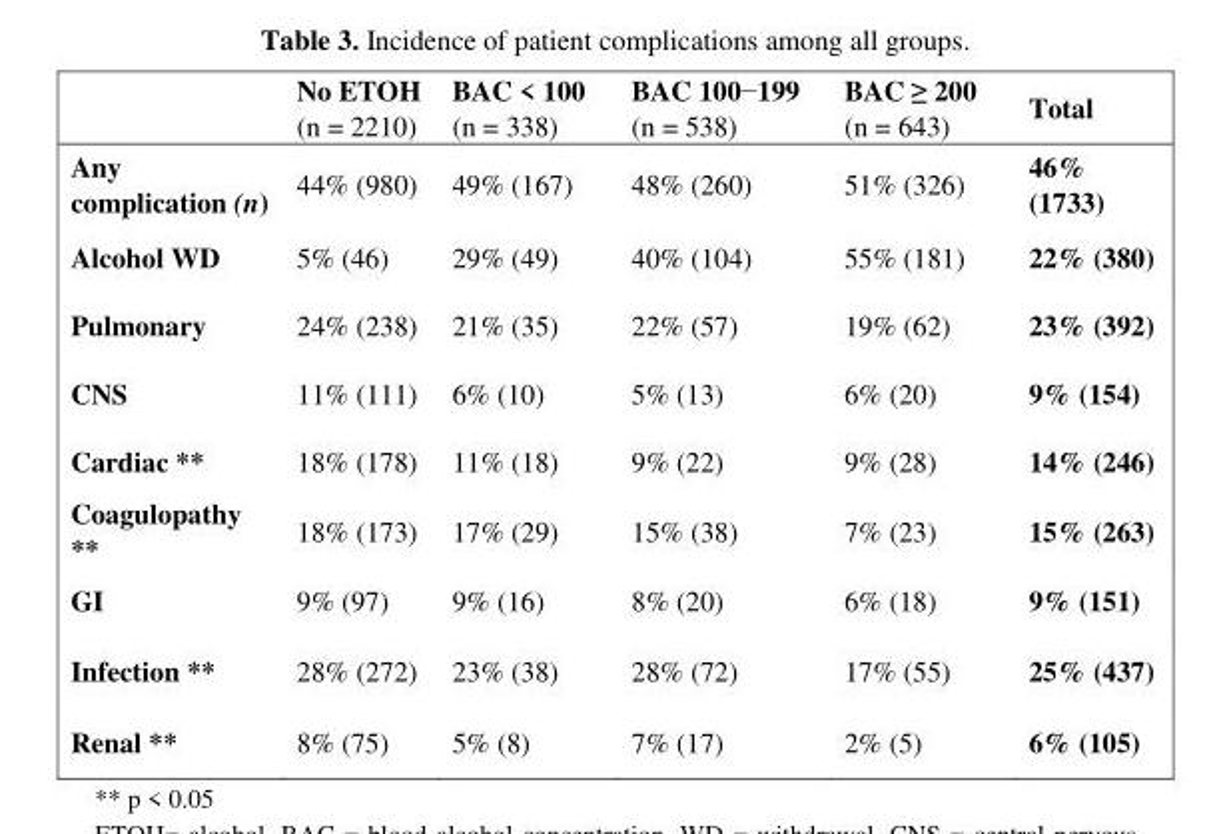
<table><thead><tr><td></td><td>No ETOH (n = 2210)</td><td>BAC &lt; 100 (n = 338)</td><td>BAC 100−199 (n = 538)</td><td>BAC ≥ 200 (n = 643)</td><td>Total</td></tr></thead><tbody><tr><td>Any complication (n)</td><td>44% (980)</td><td>49% (167)</td><td>48% (260)</td><td>51% (326)</td><td>46% (1733)</td></tr><tr><td>Alcohol WD</td><td>5% (46)</td><td>29% (49)</td><td>40% (104)</td><td>55% (181)</td><td>22% (380)</td></tr><tr><td>Pulmonary</td><td>24% (238)</td><td>21% (35)</td><td>22% (57)</td><td>19% (62)</td><td>23% (392)</td></tr><tr><td>CNS</td><td>11% (111)</td><td>6% (10)</td><td>5% (13)</td><td>6% (20)</td><td>9% (154)</td></tr><tr><td>Cardiac **</td><td>18% (178)</td><td>11% (18)</td><td>9% (22)</td><td>9% (28)</td><td>14% (246)</td></tr><tr><td>Coagulopathy **</td><td>18% (173)</td><td>17% (29)</td><td>15% (38)</td><td>7% (23)</td><td>15% (263)</td></tr><tr><td>GI</td><td>9% (97)</td><td>9% (16)</td><td>8% (20)</td><td>6% (18)</td><td>9% (151)</td></tr><tr><td>Infection **</td><td>28% (272)</td><td>23% (38)</td><td>28% (72)</td><td>17% (55)</td><td>25% (437)</td></tr><tr><td>Renal **</td><td>8% (75)</td><td>5% (8)</td><td>7% (17)</td><td>2% (5)</td><td>6% (105)</td></tr></tbody></table>